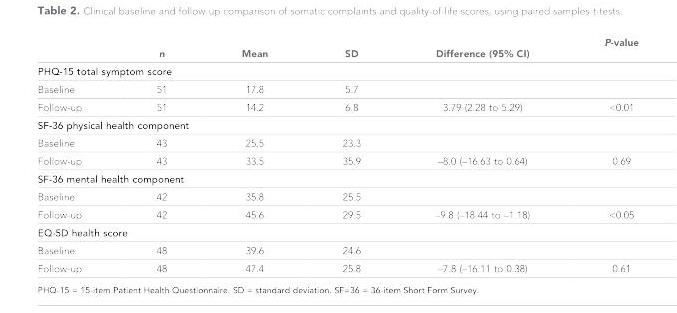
<table><thead><tr><td></td><td>n</td><td>Mean</td><td>SD</td><td>Difference (95% CI)</td><td>P-value</td></tr></thead><tbody><tr><td colspan="6">PHQ-15 total symptom score</td></tr><tr><td>Baseline</td><td>51</td><td>17.8</td><td>5.7</td><td></td><td></td></tr><tr><td>Follow-up</td><td>51</td><td>14.2</td><td>6.8</td><td>3.79 (2.28 to 5.29)</td><td>&lt;0.01</td></tr><tr><td colspan="6">SF-36 physical health component</td></tr><tr><td>Baseline</td><td>43</td><td>25.5</td><td>23.3</td><td></td><td></td></tr><tr><td>Follow-up</td><td>43</td><td>33.5</td><td>35.9</td><td>–8.0 (–16.63 to 0.64)</td><td>0.69</td></tr><tr><td colspan="6">SF-36 mental health component</td></tr><tr><td>Baseline</td><td>42</td><td>35.8</td><td>25.5</td><td></td><td></td></tr><tr><td>Follow-up</td><td>42</td><td>45.6</td><td>29.5</td><td>–9.8 (–18.44 to –1.18)</td><td>&lt;0.05</td></tr><tr><td colspan="6">EQ-5D health score</td></tr><tr><td>Baseline</td><td>48</td><td>39.6</td><td>24.6</td><td></td><td></td></tr><tr><td>Follow-up</td><td>48</td><td>47.4</td><td>25.8</td><td>–7.8 (–16.11 to 0.38)</td><td>0.61</td></tr></tbody></table>